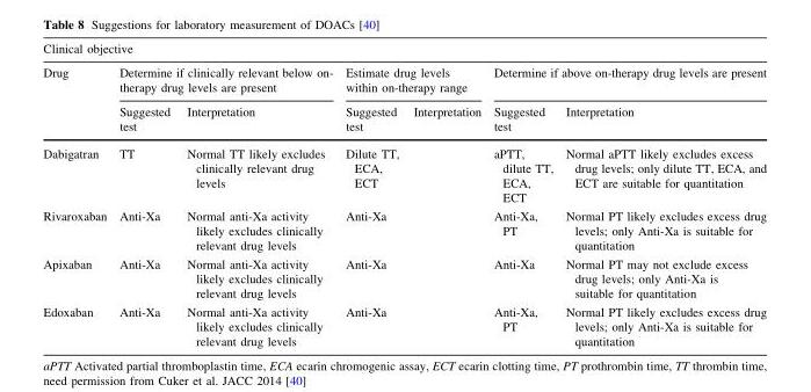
<table><thead><tr><td colspan="7">Clinical objective</td></tr><tr><td rowspan="2">Drug</td><td colspan="2">Determine if clinically relevant below on- therapy drug levels are present</td><td colspan="2">Estimate drug levels within on-therapy range</td><td colspan="2">Determine if above on-therapy drug levels are present</td></tr><tr><td>Suggested test</td><td>Interpretation</td><td>Suggested test</td><td>Interpretation</td><td>Suggested test</td><td>Interpretation</td></tr></thead><tbody><tr><td>Dabigatran</td><td>TT</td><td>Normal TT likely excludes clinically relevant drug levels</td><td>Dilute TT, ECA, ECT</td><td></td><td>aPTT, dilute TT, ECA, ECT</td><td>Normal aPTT likely excludes excess drug levels; only dilute TT, ECA, and ECT are suitable for quantitation</td></tr><tr><td>Rivaroxaban</td><td>Anti-Xa</td><td>Normal anti-Xa activity likely excludes clinically relevant drug levels</td><td>Anti-Xa</td><td></td><td>Anti-Xa, PT</td><td>Normal PT likely excludes excess drug levels; only Anti-Xa is suitable for quantitation</td></tr><tr><td>Apixaban</td><td>Anti-Xa</td><td>Normal anti-Xa activity likely excludes clinically relevant drug levels</td><td>Anti-Xa</td><td></td><td>Anti-Xa</td><td>Normal PT may not exclude excess drug levels; only Anti-Xa is suitable for quantitation</td></tr><tr><td>Edoxaban</td><td>Anti-Xa</td><td>Normal anti-Xa activity likely excludes clinically relevant drug levels</td><td>Anti-Xa</td><td></td><td>Anti-Xa, PT</td><td>Normal PT likely excludes excess drug levels; only Anti-Xa is suitable for quantitation</td></tr></tbody></table>